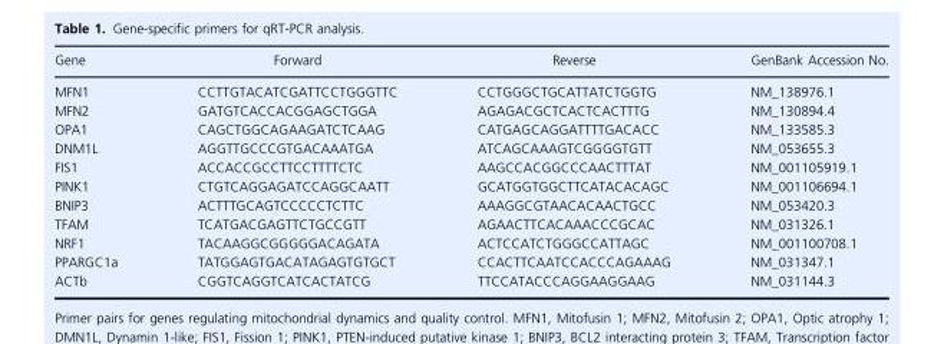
<table><thead><tr><td>Gene</td><td>Forward</td><td>Reverse</td><td>GenBank Accession No.</td></tr></thead><tbody><tr><td>MFN1</td><td>CCTTGTACATCGATTCCTGGGTTC</td><td>CCTGGGCTGCATTATCTGGTG</td><td>NM_138976.1</td></tr><tr><td>MFN2</td><td>GATGTCACCACGGAGCTGGA</td><td>AGAGACGCTCACTCACTTTG</td><td>NM_130894.4</td></tr><tr><td>OPA1</td><td>CAGCTGGCAGAAGATCTCAAG</td><td>CATGAGCAGGATTTTGACACC</td><td>NM_133585.3</td></tr><tr><td>DNM1L</td><td>AGGTTGCCCGTGACAAATGA</td><td>ATCAGCAAAGTCGGGGTGTT</td><td>NM_053655.3</td></tr><tr><td>FIS1</td><td>ACCACCGCCTTCCTTTTCTC</td><td>AAGCCACGGCCCAACTTTAT</td><td>NM_001105919.1</td></tr><tr><td>PINK1</td><td>CTGTCAGGAGATCCAGGCAATT</td><td>GCATGGTGGCTTCATACACAGC</td><td>NM_001106694.1</td></tr><tr><td>BNIP3</td><td>ACTTTGCAGTCCCCCTCTTC</td><td>AAAGGCGTAACACAACTGCC</td><td>NM_053420.3</td></tr><tr><td>TFAM</td><td>TCATGACGAGTTCTGCCGTT</td><td>AGAACTTCACAAACCCGCAC</td><td>NM_031326.1</td></tr><tr><td>NRF1</td><td>TACAAGGCGGGGGACAGATA</td><td>ACTCCATCTGGGCCATTAGC</td><td>NM_001100708.1</td></tr><tr><td>PPARGC1a</td><td>TATGGAGTGACATAGAGTGTGCT</td><td>CCACTTCAATCCACCCAGAAAG</td><td>NM_031347.1</td></tr><tr><td>ACTb</td><td>CGGTCAGGTCATCACTATCG</td><td>TTCCATACCCAGGAAGGAAG</td><td>NM_031144.3</td></tr></tbody></table>